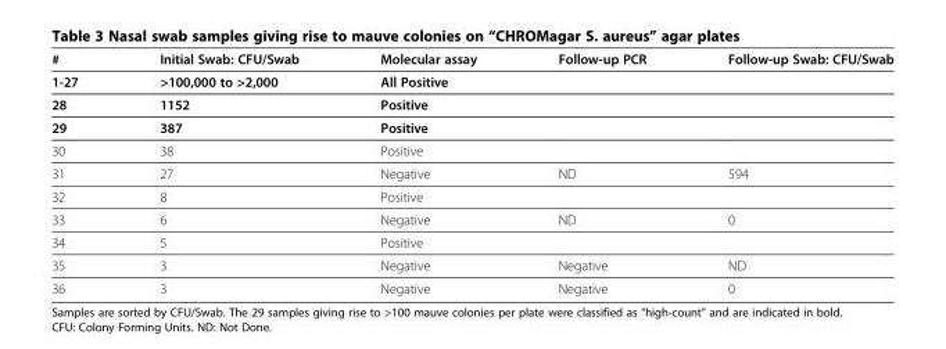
<table><thead><tr><td>#</td><td>Initial Swab: CFU/Swab</td><td>Molecular assay</td><td>Follow-up PCR</td><td>Follow-up Swab: CFU/Swab</td></tr></thead><tbody><tr><td>1-27</td><td>&gt;100,000 to &gt;2,000</td><td>All Positive</td><td></td><td></td></tr><tr><td>28</td><td>1152</td><td>Positive</td><td></td><td></td></tr><tr><td>29</td><td>387</td><td>Positive</td><td></td><td></td></tr><tr><td>30</td><td>38</td><td>Positive</td><td></td><td></td></tr><tr><td>31</td><td>27</td><td>Negative</td><td>ND</td><td>594</td></tr><tr><td>32</td><td>8</td><td>Positive</td><td></td><td></td></tr><tr><td>33</td><td>6</td><td>Negative</td><td>ND</td><td>0</td></tr><tr><td>34</td><td>5</td><td>Positive</td><td></td><td></td></tr><tr><td>35</td><td>3</td><td>Negative</td><td>Negative</td><td>ND</td></tr><tr><td>36</td><td>3</td><td>Negative</td><td>Negative</td><td>0</td></tr></tbody></table>